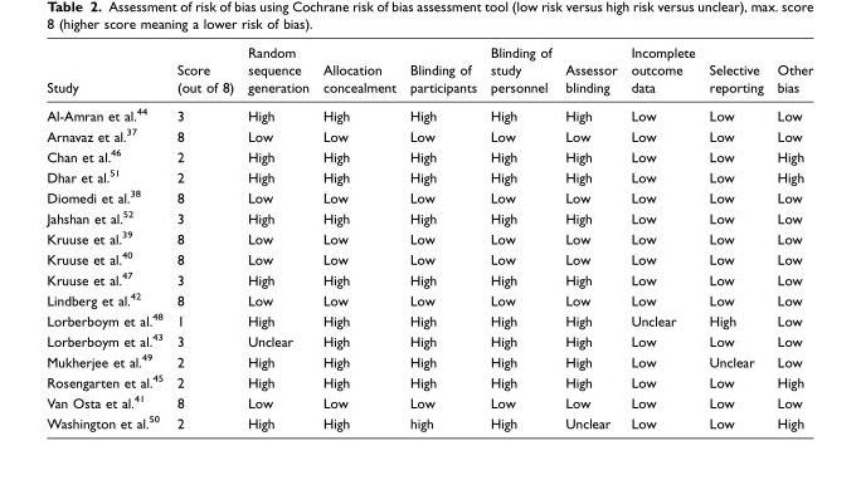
<table><thead><tr><td>Study</td><td>Score (out of 8)</td><td>Random sequence generation</td><td>Allocation concealment</td><td>Blinding of participants</td><td>Blinding of study personnel</td><td>Assessor blinding</td><td>Incomplete outcome data</td><td>Selective reporting</td><td>Other bias</td></tr></thead><tbody><tr><td>Al-Amran et al.<sup>44</sup></td><td>3</td><td>High</td><td>High</td><td>High</td><td>High</td><td>High</td><td>Low</td><td>Low</td><td>Low</td></tr><tr><td>Arnavaz et al.<sup>37</sup></td><td>8</td><td>Low</td><td>Low</td><td>Low</td><td>Low</td><td>Low</td><td>Low</td><td>Low</td><td>Low</td></tr><tr><td>Chan et al.<sup>46</sup></td><td>2</td><td>High</td><td>High</td><td>High</td><td>High</td><td>High</td><td>Low</td><td>Low</td><td>High</td></tr><tr><td>Dhar et al.<sup>51</sup></td><td>2</td><td>High</td><td>High</td><td>High</td><td>High</td><td>High</td><td>Low</td><td>Low</td><td>High</td></tr><tr><td>Diomedi et al.<sup>38</sup></td><td>8</td><td>Low</td><td>Low</td><td>Low</td><td>Low</td><td>Low</td><td>Low</td><td>Low</td><td>Low</td></tr><tr><td>Jahshan et al.<sup>52</sup></td><td>3</td><td>High</td><td>High</td><td>High</td><td>High</td><td>High</td><td>Low</td><td>Low</td><td>Low</td></tr><tr><td>Kruuse et al.<sup>39</sup></td><td>8</td><td>Low</td><td>Low</td><td>Low</td><td>Low</td><td>Low</td><td>Low</td><td>Low</td><td>Low</td></tr><tr><td>Kruuse et al.<sup>40</sup></td><td>8</td><td>Low</td><td>Low</td><td>Low</td><td>Low</td><td>Low</td><td>Low</td><td>Low</td><td>Low</td></tr><tr><td>Kruuse et al.<sup>47</sup></td><td>3</td><td>High</td><td>High</td><td>High</td><td>High</td><td>High</td><td>Low</td><td>Low</td><td>Low</td></tr><tr><td>Lindberg et al.<sup>42</sup></td><td>8</td><td>Low</td><td>Low</td><td>Low</td><td>Low</td><td>Low</td><td>Low</td><td>Low</td><td>Low</td></tr><tr><td>Lorberboym et al.<sup>48</sup></td><td>1</td><td>High</td><td>High</td><td>High</td><td>High</td><td>High</td><td>Unclear</td><td>High</td><td>Low</td></tr><tr><td>Lorberboym et al.<sup>43</sup></td><td>3</td><td>Unclear</td><td>High</td><td>High</td><td>High</td><td>High</td><td>Low</td><td>Low</td><td>Low</td></tr><tr><td>Mukherjee et al.<sup>49</sup></td><td>2</td><td>High</td><td>High</td><td>High</td><td>High</td><td>High</td><td>Low</td><td>Unclear</td><td>Low</td></tr><tr><td>Rosengarten et al.<sup>45</sup></td><td>2</td><td>High</td><td>High</td><td>High</td><td>High</td><td>High</td><td>Low</td><td>Low</td><td>High</td></tr><tr><td>Van Osta et al.<sup>41</sup></td><td>8</td><td>Low</td><td>Low</td><td>Low</td><td>Low</td><td>Low</td><td>Low</td><td>Low</td><td>Low</td></tr><tr><td>Washington et al.<sup>50</sup></td><td>2</td><td>High</td><td>High</td><td>high</td><td>High</td><td>Unclear</td><td>Low</td><td>Low</td><td>High</td></tr></tbody></table>